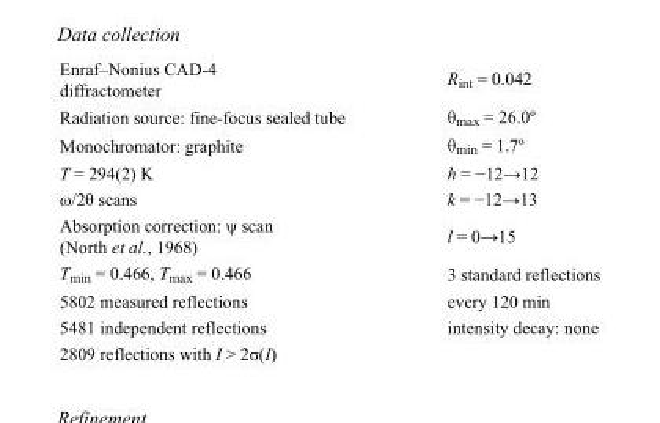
<table><tbody><tr><td>Enraf–Nonius CAD-4 diffractometer</td><td>R<sub>int</sub> = 0.042</td></tr><tr><td>Radiation source: fine-focus sealed tube</td><td>θ<sub>max</sub> = 26.0º</td></tr><tr><td>Monochromator: graphite</td><td>θ<sub>min</sub> = 1.7º</td></tr><tr><td>T = 294(2) K</td><td>h = −12→12</td></tr><tr><td>ω/2θ scans</td><td>k = −12→13</td></tr><tr><td>Absorption correction: ψ scan (North et al., 1968)</td><td>l = 0→15</td></tr><tr><td>T<sub>min</sub> = 0.466, T<sub>max</sub> = 0.466</td><td>3 standard reflections</td></tr><tr><td>5802 measured reflections</td><td>every 120 min</td></tr><tr><td>5481 independent reflections</td><td>intensity decay: none</td></tr><tr><td>2809 reflections with I &gt; 2σ(I)</td><td></td></tr></tbody></table>